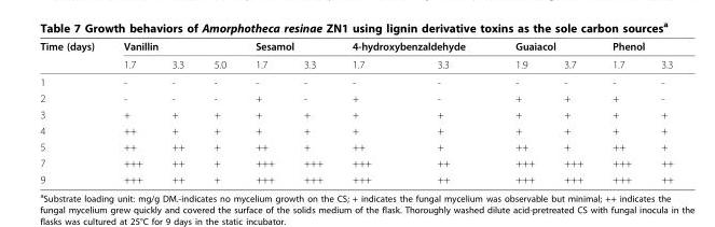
<table><thead><tr><td rowspan="2">Time (days)</td><td colspan="3">Vanillin</td><td colspan="2">Sesamol</td><td colspan="2">4-hydroxybenzaldehyde</td><td colspan="2">Guaiacol</td><td colspan="2">Phenol</td></tr><tr><td>1.7</td><td>3.3</td><td>5.0</td><td>1.7</td><td>3.3</td><td>1.7</td><td>3.3</td><td>1.9</td><td>3.7</td><td>1.7</td><td>3.3</td></tr></thead><tbody><tr><td>1</td><td>-</td><td>-</td><td>-</td><td>-</td><td>-</td><td>-</td><td>-</td><td>-</td><td>-</td><td>-</td><td>-</td></tr><tr><td>2</td><td>-</td><td>-</td><td>-</td><td>+</td><td>-</td><td>+</td><td>-</td><td>+</td><td>+</td><td>+</td><td>-</td></tr><tr><td>3</td><td>+</td><td>+</td><td>+</td><td>+</td><td>+</td><td>+</td><td>+</td><td>+</td><td>+</td><td>+</td><td>+</td></tr><tr><td>4</td><td>++</td><td>+</td><td>+</td><td>+</td><td>+</td><td>+</td><td>+</td><td>+</td><td>+</td><td>+</td><td>+</td></tr><tr><td>5</td><td>++</td><td>++</td><td>+</td><td>++</td><td>+</td><td>++</td><td>+</td><td>++</td><td>+</td><td>++</td><td>+</td></tr><tr><td>7</td><td>+++</td><td>++</td><td>+</td><td>+++</td><td>+++</td><td>+++</td><td>++</td><td>+++</td><td>+++</td><td>+++</td><td>++</td></tr><tr><td>9</td><td>+++</td><td>++</td><td>+</td><td>+++</td><td>+++</td><td>+++</td><td>++</td><td>+++</td><td>+++</td><td>+++</td><td>++</td></tr></tbody></table>